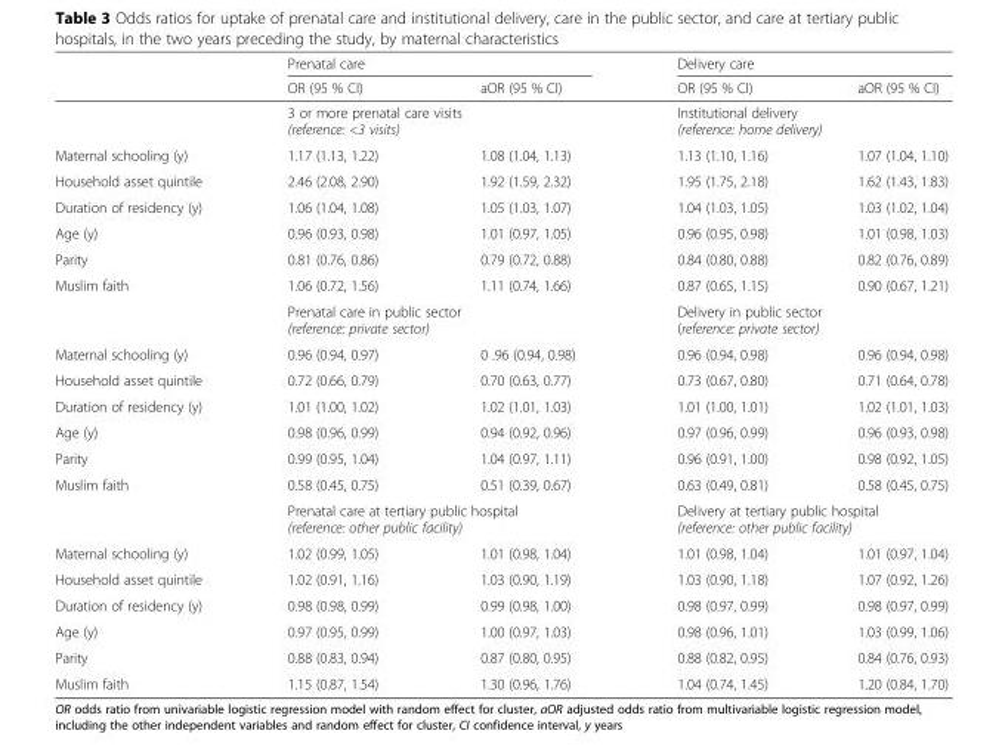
<table><thead><tr><td rowspan="2"></td><td colspan="2">Prenatal care</td><td colspan="2">Delivery care</td></tr><tr><td>OR (95 % CI)</td><td>aOR (95 % CI)</td><td>OR (95 % CI)</td><td>aOR (95 % CI)</td></tr></thead><tbody><tr><td></td><td colspan="2">3 or more prenatal care visits (reference: &lt;3 visits)</td><td colspan="2">Institutional delivery (reference: home delivery)</td></tr><tr><td>Maternal schooling (y)</td><td>1.17 (1.13, 1.22)</td><td>1.08 (1.04, 1.13)</td><td>1.13 (1.10, 1.16)</td><td>1.07 (1.04, 1.10)</td></tr><tr><td>Household asset quintile</td><td>2.46 (2.08, 2.90)</td><td>1.92 (1.59, 2.32)</td><td>1.95 (1.75, 2.18)</td><td>1.62 (1.43, 1.83)</td></tr><tr><td>Duration of residency (y)</td><td>1.06 (1.04, 1.08)</td><td>1.05 (1.03, 1.07)</td><td>1.04 (1.03, 1.05)</td><td>1.03 (1.02, 1.04)</td></tr><tr><td>Age (y)</td><td>0.96 (0.93, 0.98)</td><td>1.01 (0.97, 1.05)</td><td>0.96 (0.95, 0.98)</td><td>1.01 (0.98, 1.03)</td></tr><tr><td>Parity</td><td>0.81 (0.76, 0.86)</td><td>0.79 (0.72, 0.88)</td><td>0.84 (0.80, 0.88)</td><td>0.82 (0.76, 0.89)</td></tr><tr><td rowspan="2">Muslim faith</td><td>1.06 (0.72, 1.56)</td><td>1.11 (0.74, 1.66)</td><td>0.87 (0.65, 1.15)</td><td>0.90 (0.67, 1.21)</td></tr><tr><td colspan="2">Prenatal care in public sector (reference: private sector)</td><td colspan="2">Delivery in public sector (reference: private sector)</td></tr><tr><td>Maternal schooling (y)</td><td>0.96 (0.94, 0.97)</td><td>0 .96 (0.94, 0.98)</td><td>0.96 (0.94, 0.98)</td><td>0.96 (0.94, 0.98)</td></tr><tr><td>Household asset quintile</td><td>0.72 (0.66, 0.79)</td><td>0.70 (0.63, 0.77)</td><td>0.73 (0.67, 0.80)</td><td>0.71 (0.64, 0.78)</td></tr><tr><td>Duration of residency (y)</td><td>1.01 (1.00, 1.02)</td><td>1.02 (1.01, 1.03)</td><td>1.01 (1.00, 1.01)</td><td>1.02 (1.01, 1.03)</td></tr><tr><td>Age (y)</td><td>0.98 (0.96, 0.99)</td><td>0.94 (0.92, 0.96)</td><td>0.97 (0.96, 0.99)</td><td>0.96 (0.93, 0.98)</td></tr><tr><td>Parity</td><td>0.99 (0.95, 1.04)</td><td>1.04 (0.97, 1.11)</td><td>0.96 (0.91, 1.00)</td><td>0.98 (0.92, 1.05)</td></tr><tr><td rowspan="2">Muslim faith</td><td>0.58 (0.45, 0.75)</td><td>0.51 (0.39, 0.67)</td><td>0.63 (0.49, 0.81)</td><td>0.58 (0.45, 0.75)</td></tr><tr><td colspan="2">Prenatal care at tertiary public hospital (reference: other public facility)</td><td colspan="2">Delivery at tertiary public hospital (reference: other public facility)</td></tr><tr><td>Maternal schooling (y)</td><td>1.02 (0.99, 1.05)</td><td>1.01 (0.98, 1.04)</td><td>1.01 (0.98, 1.04)</td><td>1.01 (0.97, 1.04)</td></tr><tr><td>Household asset quintile</td><td>1.02 (0.91, 1.16)</td><td>1.03 (0.90, 1.19)</td><td>1.03 (0.90, 1.18)</td><td>1.07 (0.92, 1.26)</td></tr><tr><td>Duration of residency (y)</td><td>0.98 (0.98, 0.99)</td><td>0.99 (0.98, 1.00)</td><td>0.98 (0.97, 0.99)</td><td>0.98 (0.97, 0.99)</td></tr><tr><td>Age (y)</td><td>0.97 (0.95, 0.99)</td><td>1.00 (0.97, 1.03)</td><td>0.98 (0.96, 1.01)</td><td>1.03 (0.99, 1.06)</td></tr><tr><td>Parity</td><td>0.88 (0.83, 0.94)</td><td>0.87 (0.80, 0.95)</td><td>0.88 (0.82, 0.95)</td><td>0.84 (0.76, 0.93)</td></tr><tr><td>Muslim faith</td><td>1.15 (0.87, 1.54)</td><td>1.30 (0.96, 1.76)</td><td>1.04 (0.74, 1.45)</td><td>1.20 (0.84, 1.70)</td></tr></tbody></table>